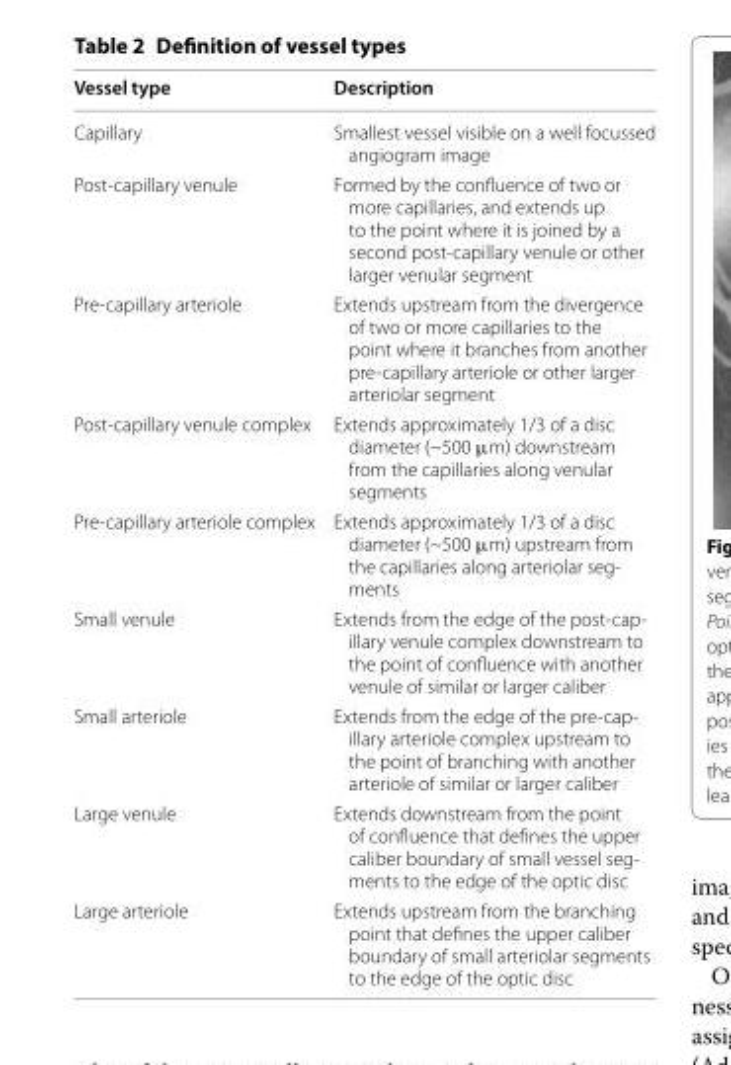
<table><thead><tr><td>Vessel type</td><td>Description</td></tr></thead><tbody><tr><td>Capillary</td><td>Smallest vessel visible on a well focussed angiogram image</td></tr><tr><td>Post-capillary venule</td><td>Formed by the confluence of two or more capillaries, and extends up to the point where it is joined by a second post-capillary venule or other larger venular segment</td></tr><tr><td>Pre-capillary arteriole</td><td>Extends upstream from the divergence of two or more capillaries to the point where it branches from another pre-capillary arteriole or other larger arteriolar segment</td></tr><tr><td>Post-capillary venule complex</td><td>Extends approximately 1/3 of a disc diameter (~500 μm) downstream from the capillaries along venular segments</td></tr><tr><td>Pre-capillary arteriole complex</td><td>Extends approximately 1/3 of a disc diameter (~500 μm) upstream from the capillaries along arteriolar seg- ments</td></tr><tr><td>Small venule</td><td>Extends from the edge of the post-cap- illary venule complex downstream to the point of confluence with another venule of similar or larger caliber</td></tr><tr><td>Small arteriole</td><td>Extends from the edge of the pre-cap- illary arteriole complex upstream to the point of branching with another arteriole of similar or larger caliber</td></tr><tr><td>Large venule</td><td>Extends downstream from the point of confluence that defines the upper caliber boundary of small vessel seg- ments to the edge of the optic disc</td></tr><tr><td>Large arteriole</td><td>Extends upstream from the branching point that defines the upper caliber boundary of small arteriolar segments to the edge of the optic disc</td></tr></tbody></table>